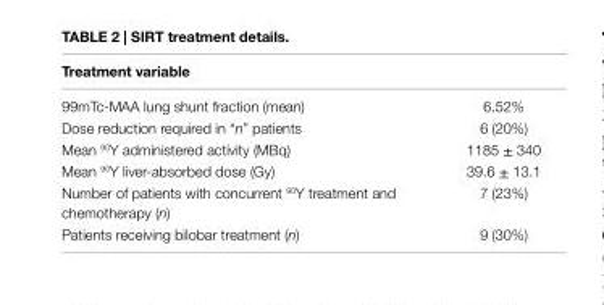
<table><thead><tr><td>Treatment variable</td><td></td></tr></thead><tbody><tr><td>99mTc-MAA lung shunt fraction (mean)</td><td>6.52%</td></tr><tr><td>Dose reduction required in “n” patients</td><td>6 (20%)</td></tr><tr><td>Mean <sup>90</sup>Y administered activity (MBq)</td><td>1185 ± 340</td></tr><tr><td>Mean <sup>90</sup>Y liver-absorbed dose (Gy)</td><td>39.6 ± 13.1</td></tr><tr><td>Number of patients with concurrent <sup>90</sup>Y treatment and chemotherapy (n)</td><td>7 (23%)</td></tr><tr><td>Patients receiving bilobar treatment (n)</td><td>9 (30%)</td></tr></tbody></table>